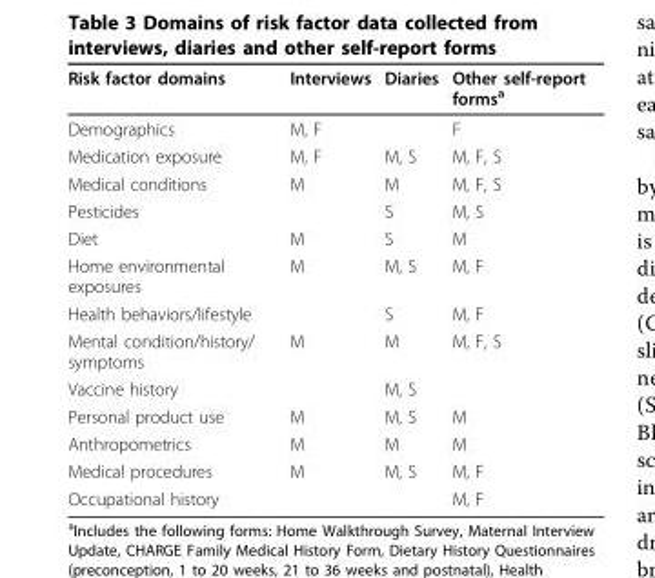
<table><thead><tr><td>Risk factor domains</td><td>Interviews</td><td>Diaries</td><td>Other self-report forms<sup>a</sup></td></tr></thead><tbody><tr><td>Demographics</td><td>M, F</td><td></td><td>F</td></tr><tr><td>Medication exposure</td><td>M, F</td><td>M, S</td><td>M, F, S</td></tr><tr><td>Medical conditions</td><td>M</td><td>M</td><td>M, F, S</td></tr><tr><td>Pesticides</td><td></td><td>S</td><td>M, S</td></tr><tr><td>Diet</td><td>M</td><td>S</td><td>M</td></tr><tr><td>Home environmental exposures</td><td>M</td><td>M, S</td><td>M, F</td></tr><tr><td>Health behaviors/lifestyle</td><td></td><td>S</td><td>M, F</td></tr><tr><td>Mental condition/history/ symptoms</td><td>M</td><td>M</td><td>M, F, S</td></tr><tr><td>Vaccine history</td><td></td><td>M, S</td><td></td></tr><tr><td>Personal product use</td><td>M</td><td>M, S</td><td>M</td></tr><tr><td>Anthropometrics</td><td>M</td><td>M</td><td>M</td></tr><tr><td>Medical procedures</td><td>M</td><td>M, S</td><td>M, F</td></tr><tr><td>Occupational history</td><td></td><td></td><td>M, F</td></tr></tbody></table>